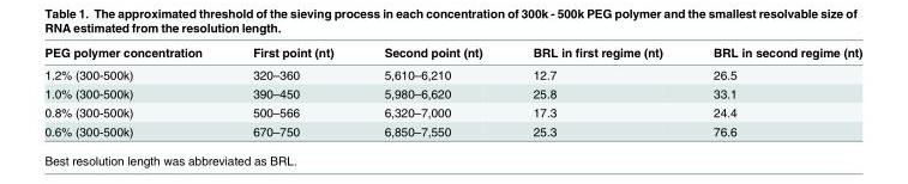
<table><thead><tr><td>PEG polymer concentration</td><td>First point (nt)</td><td>Second point (nt)</td><td>BRL in first regime (nt)</td><td>BRL in second regime (nt)</td></tr></thead><tbody><tr><td>1.2% (300-500k)</td><td>320–360</td><td>5,610–6,210</td><td>12.7</td><td>26.5</td></tr><tr><td>1.0% (300-500k)</td><td>390–450</td><td>5,980–6,620</td><td>25.8</td><td>33.1</td></tr><tr><td>0.8% (300-500k)</td><td>500–566</td><td>6,320–7,000</td><td>17.3</td><td>24.4</td></tr><tr><td>0.6% (300-500k)</td><td>670–750</td><td>6,850–7,550</td><td>25.3</td><td>76.6</td></tr></tbody></table>